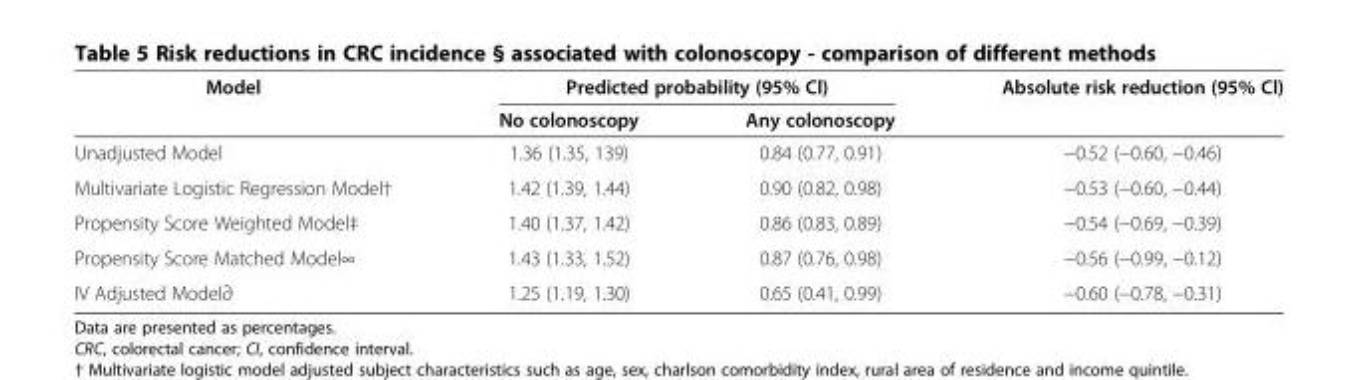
<table><thead><tr><td rowspan="2">Model</td><td colspan="2">Predicted probability (95% Cl)</td><td rowspan="2">Absolute risk reduction (95% Cl)</td></tr><tr><td>No colonoscopy</td><td>Any colonoscopy</td></tr></thead><tbody><tr><td>Unadjusted Model</td><td>1.36 (1.35, 139)</td><td>0.84 (0.77, 0.91)</td><td>−0.52 (−0.60, −0.46)</td></tr><tr><td>Multivariate Logistic Regression Model†</td><td>1.42 (1.39, 1.44)</td><td>0.90 (0.82, 0.98)</td><td>−0.53 (−0.60, −0.44)</td></tr><tr><td>Propensity Score Weighted Model‡</td><td>1.40 (1.37, 1.42)</td><td>0.86 (0.83, 0.89)</td><td>−0.54 (−0.69, −0.39)</td></tr><tr><td>Propensity Score Matched Model∞</td><td>1.43 (1.33, 1.52)</td><td>0.87 (0.76, 0.98)</td><td>−0.56 (−0.99, −0.12)</td></tr><tr><td>IV Adjusted Model∂</td><td>1.25 (1.19, 1.30)</td><td>0.65 (0.41, 0.99)</td><td>−0.60 (−0.78, −0.31)</td></tr></tbody></table>